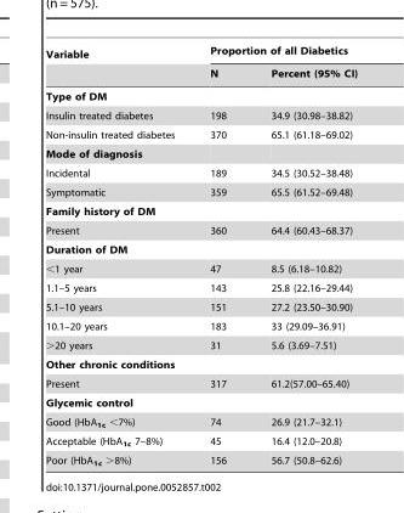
<table><thead><tr><td rowspan="2">Variable</td><td colspan="2">Proportion of all Diabetics</td></tr><tr><td>N</td><td>Percent (95% CI)</td></tr></thead><tbody><tr><td colspan="3">Type of DM</td></tr><tr><td>Insulin treated diabetes</td><td>198</td><td>34.9 (30.98–38.82)</td></tr><tr><td>Non-insulin treated diabetes</td><td>370</td><td>65.1 (61.18–69.02)</td></tr><tr><td colspan="3">Mode of diagnosis</td></tr><tr><td>Incidental</td><td>189</td><td>34.5 (30.52–38.48)</td></tr><tr><td>Symptomatic</td><td>359</td><td>65.5 (61.52–69.48)</td></tr><tr><td colspan="3">Family history of DM</td></tr><tr><td>Present</td><td>360</td><td>64.4 (60.43–68.37)</td></tr><tr><td colspan="3">Duration of DM</td></tr><tr><td>&lt;1 year</td><td>47</td><td>8.5 (6.18–10.82)</td></tr><tr><td>1.1–5 years</td><td>143</td><td>25.8 (22.16–29.44)</td></tr><tr><td>5.1–10 years</td><td>151</td><td>27.2 (23.50–30.90)</td></tr><tr><td>10.1–20 years</td><td>183</td><td>33 (29.09–36.91)</td></tr><tr><td>&gt;20 years</td><td>31</td><td>5.6 (3.69–7.51)</td></tr><tr><td colspan="3">Other chronic conditions</td></tr><tr><td>Present</td><td>317</td><td>61.2(57.00–65.40)</td></tr><tr><td colspan="3">Glycemic control</td></tr><tr><td>Good (HbA<sub>1c</sub> &lt;7%)</td><td>74</td><td>26.9 (21.7–32.1)</td></tr><tr><td>Acceptable (HbA<sub>1c</sub> 7–8%)</td><td>45</td><td>16.4 (12.0–20.8)</td></tr><tr><td>Poor (HbA<sub>1c</sub> &gt;8%)</td><td>156</td><td>56.7 (50.8–62.6)</td></tr></tbody></table>